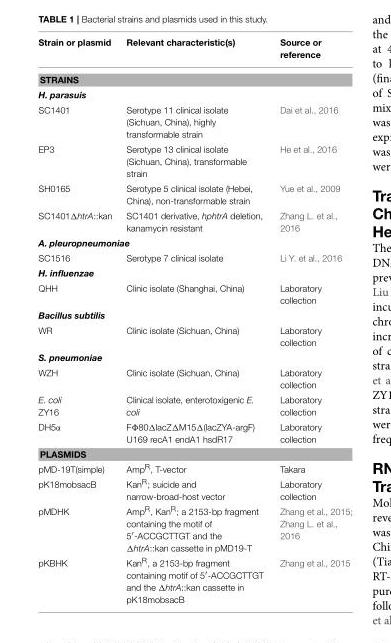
<table><thead><tr><td>Strain or plasmid</td><td>Relevant characteristic(s)</td><td>Source or reference</td></tr></thead><tbody><tr><td colspan="3">STRAINS</td></tr><tr><td colspan="3">H. parasuis</td></tr><tr><td>SC1401</td><td>Serotype 11 clinical isolate (Sichuan, China), highly transformable strain</td><td>Dai et al., 2016</td></tr><tr><td>EP3</td><td>Serotype 13 clinical isolate (Sichuan, China), transformable strain</td><td>He et al., 2016</td></tr><tr><td>SH0165</td><td>Serotype 5 clinical isolate (Hebei, China), non-transformable strain</td><td>Yue et al., 2009</td></tr><tr><td>SC1401ΔhtrA::kan</td><td>SC1401 derivative, hphtrA deletion, kanamycin resistant</td><td>Zhang L. et al., 2016</td></tr><tr><td colspan="3">A. pleuropneumoniae</td></tr><tr><td>SC1516</td><td>Serotype 7 clinical isolate</td><td>Li Y. et al., 2016</td></tr><tr><td colspan="3">H. influenzae</td></tr><tr><td>QHH</td><td>Clinic isolate (Shanghai, China)</td><td>Laboratory collection</td></tr><tr><td colspan="3">Bacillus subtilis</td></tr><tr><td>WR</td><td>Clinic isolate (Sichuan, China)</td><td>Laboratory collection</td></tr><tr><td colspan="3">S. pneumoniae</td></tr><tr><td>WZH</td><td>Clinic isolate (Sichuan, China)</td><td>Laboratory collection</td></tr><tr><td>E. coli ZY16</td><td>Clinical isolate, enterotoxigenic E. coli</td><td>Laboratory collection</td></tr><tr><td>DH5α</td><td>FΦ80ΔlacZΔM15Δ(lacZYA-argF) U169 recA1 endA1 hsdR17</td><td>Laboratory collection</td></tr><tr><td colspan="3">PLASMIDS</td></tr><tr><td>pMD-19T(simple)</td><td>Amp<sup>R</sup>, T-vector</td><td>Takara</td></tr><tr><td>pK18mobsacB</td><td>Kan<sup>R</sup>; suicide and narrow-broad-host vector</td><td>Laboratory collection</td></tr><tr><td>pMDHK</td><td>Amp<sup>R</sup>, Kan<sup>R</sup>; a 2153-bp fragment containing the motif of 5′-ACCGCTTGT and the ΔhtrA::kan cassette in pMD19-T</td><td>Zhang et al., 2015; Zhang L. et al., 2016</td></tr><tr><td>pKBHK</td><td>Kan<sup>R</sup>, a 2153-bp fragment containing motif of 5′-ACCGCTTGT and the ΔhtrA::kan cassette in pK18mobsacB</td><td>Zhang et al., 2015</td></tr></tbody></table>